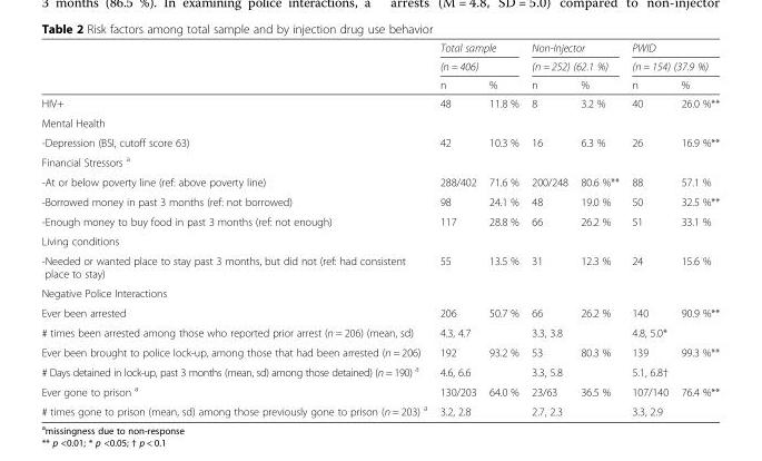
<table><thead><tr><td rowspan="3"></td><td rowspan="2" colspan="2">Total sample (n = 406)</td><td rowspan="2" colspan="2">Non-Injector (n = 252) (62.1 %)</td><td rowspan="2" colspan="2">PWID (n = 154) (37.9 %)</td></tr><tr></tr><tr><td>n</td><td>%</td><td>n</td><td>%</td><td>n</td><td>%</td></tr></thead><tbody><tr><td>HIV+</td><td>48</td><td>11.8 %</td><td>8</td><td>3.2 %</td><td>40</td><td>26.0 %**</td></tr><tr><td colspan="7">Mental Health</td></tr><tr><td>-Depression (BSI, cutoff score 63)</td><td>42</td><td>10.3 %</td><td>16</td><td>6.3 %</td><td>26</td><td>16.9 %**</td></tr><tr><td colspan="7">Financial Stressors <sup>a</sup></td></tr><tr><td>-At or below poverty line (ref: above poverty line)</td><td>288/402</td><td>71.6 %</td><td>200/248</td><td>80.6 %**</td><td>88</td><td>57.1 %</td></tr><tr><td>-Borrowed money in past 3 months (ref: not borrowed)</td><td>98</td><td>24.1 %</td><td>48</td><td>19.0 %</td><td>50</td><td>32.5 %**</td></tr><tr><td>-Enough money to buy food in past 3 months (ref: not enough)</td><td>117</td><td>28.8 %</td><td>66</td><td>26.2 %</td><td>51</td><td>33.1 %</td></tr><tr><td colspan="7">Living conditions</td></tr><tr><td>-Needed or wanted place to stay past 3 months, but did not (ref: had consistent place to stay)</td><td>55</td><td>13.5 %</td><td>31</td><td>12.3 %</td><td>24</td><td>15.6 %</td></tr><tr><td colspan="7">Negative Police Interactions</td></tr><tr><td>Ever been arrested</td><td>206</td><td>50.7 %</td><td>66</td><td>26.2 %</td><td>140</td><td>90.9 %**</td></tr><tr><td># times been arrested among those who reported prior arrest (n = 206) (mean, sd)</td><td colspan="2">4.3, 4.7</td><td colspan="2">3.3, 3.8</td><td colspan="2">4.8, 5.0*</td></tr><tr><td>Ever been brought to police lock-up, among those that had been arrested (n = 206)</td><td>192</td><td>93.2 %</td><td>53</td><td>80.3 %</td><td>139</td><td>99.3 %**</td></tr><tr><td># Days detained in lock-up, past 3 months (mean, sd) among those detained) (n = 190) <sup>a</sup></td><td colspan="2">4.6, 6.6</td><td colspan="2">3.3, 5.8</td><td colspan="2">5.1, 6.8†</td></tr><tr><td>Ever gone to prison <sup>a</sup></td><td>130/203</td><td>64.0 %</td><td>23/63</td><td>36.5 %</td><td>107/140</td><td>76.4 %**</td></tr><tr><td># times gone to prison (mean, sd) among those previously gone to prison (n = 203) <sup>a</sup></td><td colspan="2">3.2, 2.8</td><td colspan="2">2.7, 2.3</td><td colspan="2">3.3, 2.9</td></tr></tbody></table>